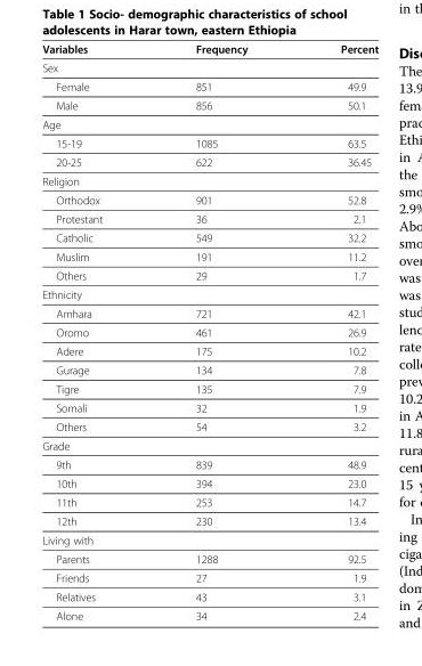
<table><thead><tr><td>Variables</td><td>Frequency</td><td>Percent</td></tr></thead><tbody><tr><td colspan="3">Sex</td></tr><tr><td>Female</td><td>851</td><td>49.9</td></tr><tr><td>Male</td><td>856</td><td>50.1</td></tr><tr><td colspan="3">Age</td></tr><tr><td>15-19</td><td>1085</td><td>63.5</td></tr><tr><td>20-25</td><td>622</td><td>36.45</td></tr><tr><td colspan="3">Religion</td></tr><tr><td>Orthodox</td><td>901</td><td>52.8</td></tr><tr><td>Protestant</td><td>36</td><td>2.1</td></tr><tr><td>Catholic</td><td>549</td><td>32.2</td></tr><tr><td>Muslim</td><td>191</td><td>11.2</td></tr><tr><td>Others</td><td>29</td><td>1.7</td></tr><tr><td colspan="3">Ethnicity</td></tr><tr><td>Amhara</td><td>721</td><td>42.1</td></tr><tr><td>Oromo</td><td>461</td><td>26.9</td></tr><tr><td>Adere</td><td>175</td><td>10.2</td></tr><tr><td>Gurage</td><td>134</td><td>7.8</td></tr><tr><td>Tigre</td><td>135</td><td>7.9</td></tr><tr><td>Somali</td><td>32</td><td>1.9</td></tr><tr><td>Others</td><td>54</td><td>3.2</td></tr><tr><td colspan="3">Grade</td></tr><tr><td>9th</td><td>839</td><td>48.9</td></tr><tr><td>10th</td><td>394</td><td>23.0</td></tr><tr><td>11th</td><td>253</td><td>14.7</td></tr><tr><td>12th</td><td>230</td><td>13.4</td></tr><tr><td colspan="3">Living with</td></tr><tr><td>Parents</td><td>1288</td><td>92.5</td></tr><tr><td>Friends</td><td>27</td><td>1.9</td></tr><tr><td>Relatives</td><td>43</td><td>3.1</td></tr><tr><td>Alone</td><td>34</td><td>2.4</td></tr></tbody></table>